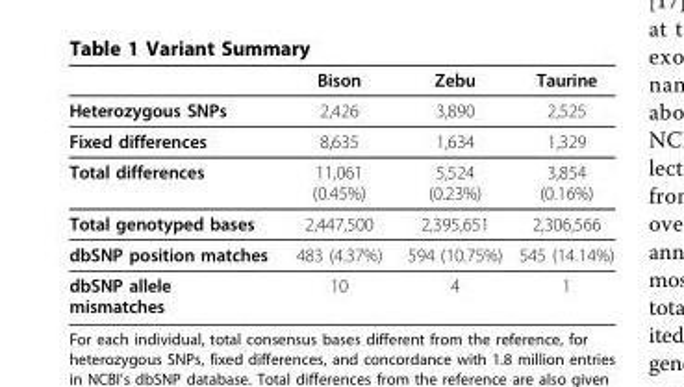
<table><thead><tr><td></td><td>Bison</td><td>Zebu</td><td>Taurine</td></tr></thead><tbody><tr><td>Heterozygous SNPs</td><td>2,426</td><td>3,890</td><td>2,525</td></tr><tr><td>Fixed differences</td><td>8,635</td><td>1,634</td><td>1,329</td></tr><tr><td>Total differences</td><td>11,061 (0.45%)</td><td>5,524 (0.23%)</td><td>3,854 (0.16%)</td></tr><tr><td>Total genotyped bases</td><td>2,447,500</td><td>2,395,651</td><td>2,306,566</td></tr><tr><td>dbSNP position matches</td><td>483 (4.37%)</td><td>594 (10.75%)</td><td>545 (14.14%)</td></tr><tr><td>dbSNP allele mismatches</td><td>10</td><td>4</td><td>1</td></tr></tbody></table>